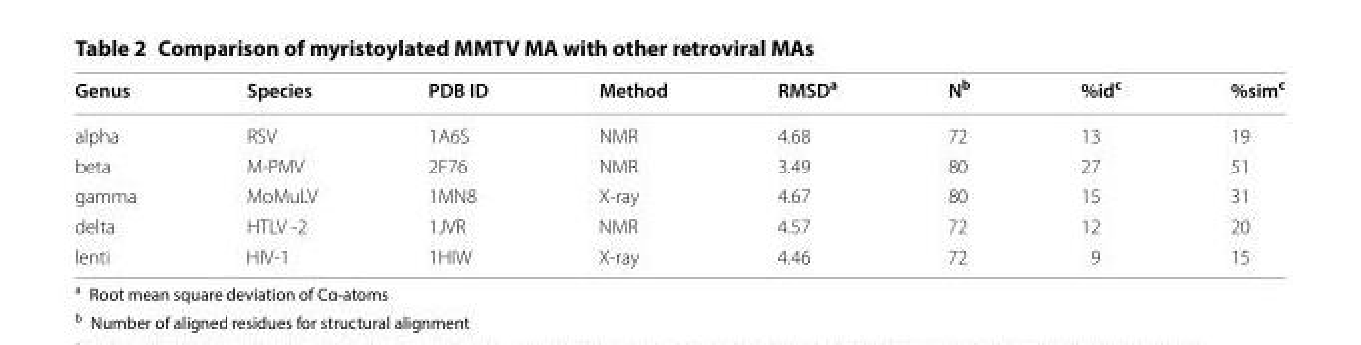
<table><thead><tr><td>Genus</td><td>Species</td><td>PDB ID</td><td>Method</td><td>RMSD<sup>a</sup></td><td>N<sup>b</sup></td><td>%id<sup>c</sup></td><td>%sim<sup>c</sup></td></tr></thead><tbody><tr><td>alpha</td><td>RSV</td><td>1A6S</td><td>NMR</td><td>4.68</td><td>72</td><td>13</td><td>19</td></tr><tr><td>beta</td><td>M-PMV</td><td>2F76</td><td>NMR</td><td>3.49</td><td>80</td><td>27</td><td>51</td></tr><tr><td>gamma</td><td>MoMuLV</td><td>1MN8</td><td>X-ray</td><td>4.67</td><td>80</td><td>15</td><td>31</td></tr><tr><td>delta</td><td>HTLV -2</td><td>1JVR</td><td>NMR</td><td>4.57</td><td>72</td><td>12</td><td>20</td></tr><tr><td>lenti</td><td>HIV-1</td><td>1HIW</td><td>X-ray</td><td>4.46</td><td>72</td><td>9</td><td>15</td></tr></tbody></table>